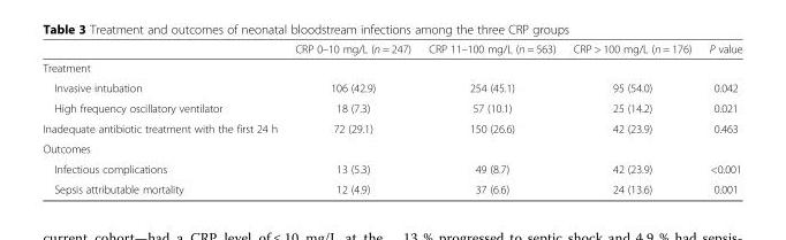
<table><thead><tr><td></td><td>CRP 0–10 mg/L (n = 247)</td><td>CRP 11–100 mg/L (n = 563)</td><td>CRP &gt; 100 mg/L (n = 176)</td><td>P value</td></tr></thead><tbody><tr><td colspan="5">Treatment</td></tr><tr><td>Invasive intubation</td><td>106 (42.9)</td><td>254 (45.1)</td><td>95 (54.0)</td><td>0.042</td></tr><tr><td>High frequency oscillatory ventilator</td><td>18 (7.3)</td><td>57 (10.1)</td><td>25 (14.2)</td><td>0.021</td></tr><tr><td>Inadequate antibiotic treatment with the first 24 h</td><td>72 (29.1)</td><td>150 (26.6)</td><td>42 (23.9)</td><td>0.463</td></tr><tr><td colspan="5">Outcomes</td></tr><tr><td>Infectious complications</td><td>13 (5.3)</td><td>49 (8.7)</td><td>42 (23.9)</td><td>&lt;0.001</td></tr><tr><td>Sepsis attributable mortality</td><td>12 (4.9)</td><td>37 (6.6)</td><td>24 (13.6)</td><td>0.001</td></tr></tbody></table>